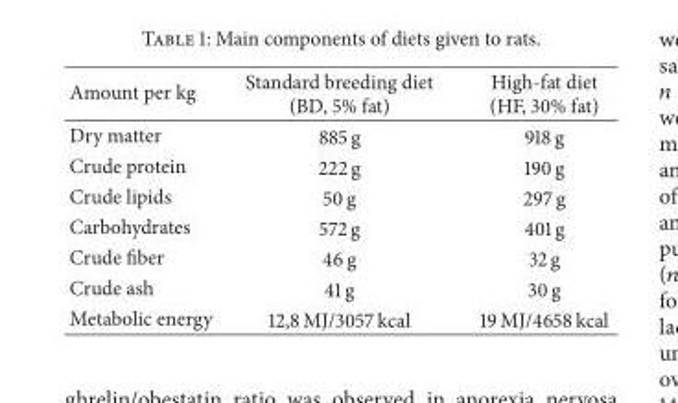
<table><thead><tr><td>Amount per kg</td><td>Standard breeding diet (BD, 5% fat)</td><td>High-fat diet (HF, 30% fat)</td></tr></thead><tbody><tr><td>Dry matter</td><td>885 g</td><td>918 g</td></tr><tr><td>Crude protein</td><td>222 g</td><td>190 g</td></tr><tr><td>Crude lipids</td><td>50 g</td><td>297 g</td></tr><tr><td>Carbohydrates</td><td>572 g</td><td>401 g</td></tr><tr><td>Crude fiber</td><td>46 g</td><td>32 g</td></tr><tr><td>Crude ash</td><td>41 g</td><td>30 g</td></tr><tr><td>Metabolic energy</td><td>12,8 MJ/3057 kcal</td><td>19 MJ/4658 kcal</td></tr></tbody></table>